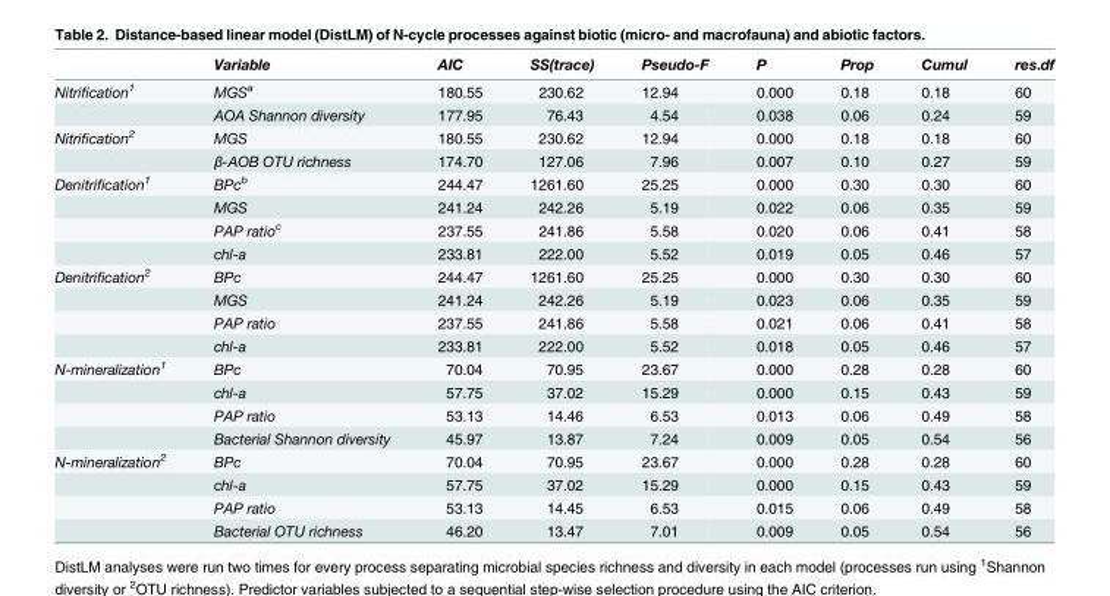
<table><thead><tr><td></td><td>Variable</td><td>AIC</td><td>SS(trace)</td><td>Pseudo-F</td><td>P</td><td>Prop</td><td>Cumul</td><td>res.df</td></tr></thead><tbody><tr><td rowspan="2">Nitrification<sup>1</sup></td><td>MGS<sup>a</sup></td><td>180.55</td><td>230.62</td><td>12.94</td><td>0.000</td><td>0.18</td><td>0.18</td><td>60</td></tr><tr><td>AOA Shannon diversity</td><td>177.95</td><td>76.43</td><td>4.54</td><td>0.038</td><td>0.06</td><td>0.24</td><td>59</td></tr><tr><td rowspan="2">Nitrification<sup>2</sup></td><td>MGS</td><td>180.55</td><td>230.62</td><td>12.94</td><td>0.000</td><td>0.18</td><td>0.18</td><td>60</td></tr><tr><td>β-AOB OTU richness</td><td>174.70</td><td>127.06</td><td>7.96</td><td>0.007</td><td>0.10</td><td>0.27</td><td>59</td></tr><tr><td rowspan="4">Denitrification<sup>1</sup></td><td>BPc<sup>b</sup></td><td>244.47</td><td>1261.60</td><td>25.25</td><td>0.000</td><td>0.30</td><td>0.30</td><td>60</td></tr><tr><td>MGS</td><td>241.24</td><td>242.26</td><td>5.19</td><td>0.022</td><td>0.06</td><td>0.35</td><td>59</td></tr><tr><td>PAP ratio<sup>c</sup></td><td>237.55</td><td>241.86</td><td>5.58</td><td>0.020</td><td>0.06</td><td>0.41</td><td>58</td></tr><tr><td>chl-a</td><td>233.81</td><td>222.00</td><td>5.52</td><td>0.019</td><td>0.05</td><td>0.46</td><td>57</td></tr><tr><td rowspan="4">Denitrification<sup>2</sup></td><td>BPc</td><td>244.47</td><td>1261.60</td><td>25.25</td><td>0.000</td><td>0.30</td><td>0.30</td><td>60</td></tr><tr><td>MGS</td><td>241.24</td><td>242.26</td><td>5.19</td><td>0.023</td><td>0.06</td><td>0.35</td><td>59</td></tr><tr><td>PAP ratio</td><td>237.55</td><td>241.86</td><td>5.58</td><td>0.021</td><td>0.06</td><td>0.41</td><td>58</td></tr><tr><td>chl-a</td><td>233.81</td><td>222.00</td><td>5.52</td><td>0.018</td><td>0.05</td><td>0.46</td><td>57</td></tr><tr><td rowspan="4">N-mineralization<sup>1</sup></td><td>BPc</td><td>70.04</td><td>70.95</td><td>23.67</td><td>0.000</td><td>0.28</td><td>0.28</td><td>60</td></tr><tr><td>chl-a</td><td>57.75</td><td>37.02</td><td>15.29</td><td>0.000</td><td>0.15</td><td>0.43</td><td>59</td></tr><tr><td>PAP ratio</td><td>53.13</td><td>14.46</td><td>6.53</td><td>0.013</td><td>0.06</td><td>0.49</td><td>58</td></tr><tr><td>Bacterial Shannon diversity</td><td>45.97</td><td>13.87</td><td>7.24</td><td>0.009</td><td>0.05</td><td>0.54</td><td>56</td></tr><tr><td rowspan="4">N-mineralization<sup>2</sup></td><td>BPc</td><td>70.04</td><td>70.95</td><td>23.67</td><td>0.000</td><td>0.28</td><td>0.28</td><td>60</td></tr><tr><td>chl-a</td><td>57.75</td><td>37.02</td><td>15.29</td><td>0.000</td><td>0.15</td><td>0.43</td><td>59</td></tr><tr><td>PAP ratio</td><td>53.13</td><td>14.45</td><td>6.53</td><td>0.015</td><td>0.06</td><td>0.49</td><td>58</td></tr><tr><td>Bacterial OTU richness</td><td>46.20</td><td>13.47</td><td>7.01</td><td>0.009</td><td>0.05</td><td>0.54</td><td>56</td></tr></tbody></table>